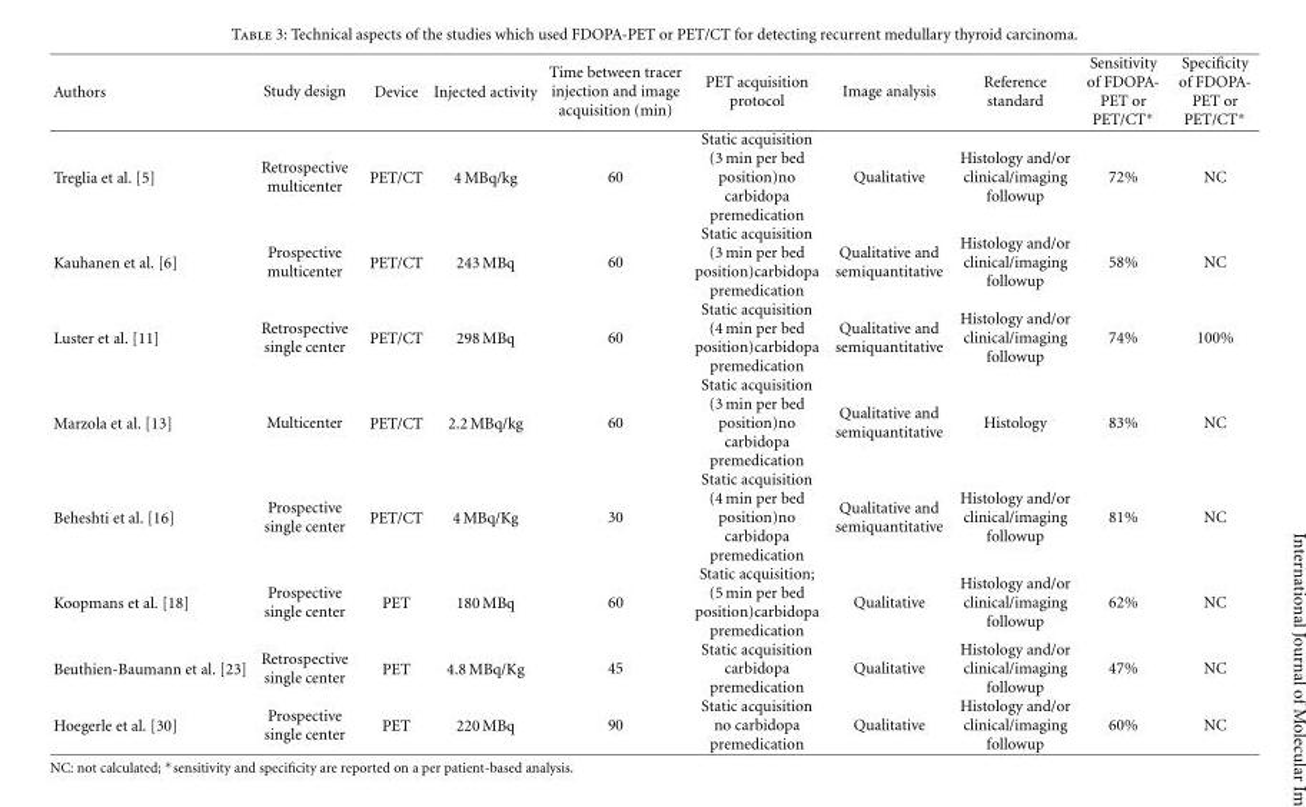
<table><thead><tr><td>Authors</td><td>Study design</td><td>Device</td><td>Injected activity</td><td>Time between tracer injection and image acquisition (min)</td><td>PET acquisition protocol</td><td>Image analysis</td><td>Reference standard</td><td>Sensitivity of FDOPA- PET or PET/CT∗</td><td>Specificity of FDOPA- PET or PET/CT∗</td></tr></thead><tbody><tr><td>Treglia et al. [5]</td><td>Retrospective multicenter</td><td>PET/CT</td><td>4 MBq/kg</td><td>60</td><td>Static acquisition (3 min per bed position)no carbidopa premedication</td><td>Qualitative</td><td>Histology and/or clinical/imaging followup</td><td>72%</td><td>NC</td></tr><tr><td>Kauhanen et al. [6]</td><td>Prospective multicenter</td><td>PET/CT</td><td>243 MBq</td><td>60</td><td>Static acquisition (3 min per bed position)carbidopa premedication</td><td>Qualitative and semiquantitative</td><td>Histology and/or clinical/imaging followup</td><td>58%</td><td>NC</td></tr><tr><td>Luster et al. [11]</td><td>Retrospective single center</td><td>PET/CT</td><td>298 MBq</td><td>60</td><td>Static acquisition (4 min per bed position)carbidopa premedication</td><td>Qualitative and semiquantitative</td><td>Histology and/or clinical/imaging followup</td><td>74%</td><td>100%</td></tr><tr><td>Marzola et al. [13]</td><td>Multicenter</td><td>PET/CT</td><td>2.2 MBq/kg</td><td>60</td><td>Static acquisition (3 min per bed position)no carbidopa premedication</td><td>Qualitative and semiquantitative</td><td>Histology</td><td>83%</td><td>NC</td></tr><tr><td>Beheshti et al. [16]</td><td>Prospective single center</td><td>PET/CT</td><td>4 MBq/Kg</td><td>30</td><td>Static acquisition (4 min per bed position)no carbidopa premedication</td><td>Qualitative and semiquantitative</td><td>Histology and/or clinical/imaging followup</td><td>81%</td><td>NC</td></tr><tr><td>Koopmans et al. [18]</td><td>Prospective single center</td><td>PET</td><td>180 MBq</td><td>60</td><td>Static acquisition; (5 min per bed position)carbidopa premedication</td><td>Qualitative</td><td>Histology and/or clinical/imaging followup</td><td>62%</td><td>NC</td></tr><tr><td>Beuthien-Baumann et al. [23]</td><td>Retrospective single center</td><td>PET</td><td>4.8 MBq/Kg</td><td>45</td><td>Static acquisition carbidopa premedication</td><td>Qualitative</td><td>Histology and/or clinical/imaging followup</td><td>47%</td><td>NC</td></tr><tr><td>Hoegerle et al. [30]</td><td>Prospective single center</td><td>PET</td><td>220 MBq</td><td>90</td><td>Static acquisition no carbidopa premedication</td><td>Qualitative</td><td>Histology and/or clinical/imaging followup</td><td>60%</td><td>NC</td></tr></tbody></table>